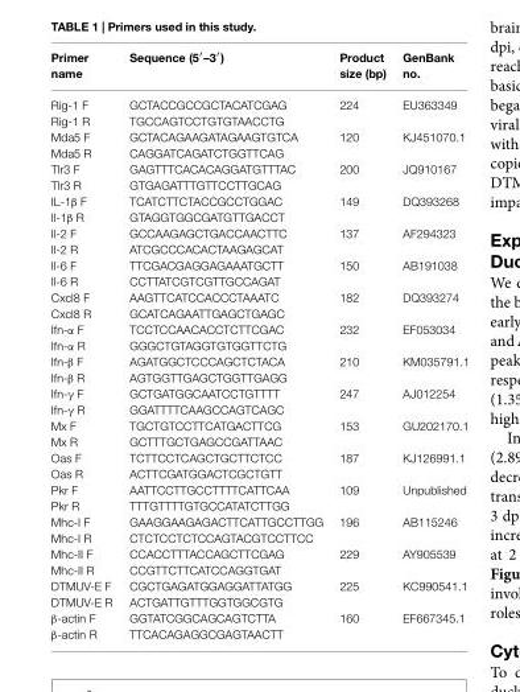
<table><thead><tr><td>Primer name</td><td>Sequence (5′–3′)</td><td>Product size (bp)</td><td>GenBank no.</td></tr></thead><tbody><tr><td>Rig-1 F</td><td>GCTACCGCCGCTACATCGAG</td><td>224</td><td>EU363349</td></tr><tr><td>Rig-1 R</td><td>TGCCAGTCCTGTGTAACCTG</td><td></td><td></td></tr><tr><td>Mda5 F</td><td>GCTACAGAAGATAGAAGTGTCA</td><td>120</td><td>KJ451070.1</td></tr><tr><td>Mda5 R</td><td>CAGGATCAGATCTGGTTCAG</td><td></td><td></td></tr><tr><td>Tlr3 F</td><td>GAGTTTCACACAGGATGTTTAC</td><td>200</td><td>JQ910167</td></tr><tr><td>Tlr3 R</td><td>GTGAGATTTGTTCCTTGCAG</td><td></td><td></td></tr><tr><td>IL-1β F</td><td>TCATCTTCTACCGCCTGGAC</td><td>149</td><td>DQ393268</td></tr><tr><td>Il-1β R</td><td>GTAGGTGGCGATGTTGACCT</td><td></td><td></td></tr><tr><td>Il-2 F</td><td>GCCAAGAGCTGACCAACTTC</td><td>137</td><td>AF294323</td></tr><tr><td>Il-2 R</td><td>ATCGCCCACACTAAGAGCAT</td><td></td><td></td></tr><tr><td>Il-6 F</td><td>TTCGACGAGGAGAAATGCTT</td><td>150</td><td>AB191038</td></tr><tr><td>Il-6 R</td><td>CCTTATCGTCGTTGCCAGAT</td><td></td><td></td></tr><tr><td>Cxcl8 F</td><td>AAGTTCATCCACCCTAAATC</td><td>182</td><td>DQ393274</td></tr><tr><td>Cxcl8 R</td><td>GCATCAGAATTGAGCTGAGC</td><td></td><td></td></tr><tr><td>Ifn-α F</td><td>TCCTCCAACACCTCTTCGAC</td><td>232</td><td>EF053034</td></tr><tr><td>Ifn-α R</td><td>GGGCTGTAGGTGTGGTTCTG</td><td></td><td></td></tr><tr><td>Ifn-β F</td><td>AGATGGCTCCCAGCTCTACA</td><td>210</td><td>KM035791.1</td></tr><tr><td>Ifn-β R</td><td>AGTGGTTGAGCTGGTTGAGG</td><td></td><td></td></tr><tr><td>Ifn-γ F</td><td>GCTGATGGCAATCCTGTTTT</td><td>247</td><td>AJ012254</td></tr><tr><td>Ifn-γ R</td><td>GGATTTTCAAGCCAGTCAGC</td><td></td><td></td></tr><tr><td>Mx F</td><td>TGCTGTCCTTCATGACTTCG</td><td>153</td><td>GU202170.1</td></tr><tr><td>Mx R</td><td>GCTTTGCTGAGCCGATTAAC</td><td></td><td></td></tr><tr><td>Oas F</td><td>TCTTCCTCAGCTGCTTCTCC</td><td>187</td><td>KJ126991.1</td></tr><tr><td>Oas R</td><td>ACTTCGATGGACTCGCTGTT</td><td></td><td></td></tr><tr><td>Pkr F</td><td>AATTCCTTGCCTTTTCATTCAA</td><td>109</td><td>Unpublished</td></tr><tr><td>Pkr R</td><td>TTTGTTTTGTGCCATATCTTGG</td><td></td><td></td></tr><tr><td>Mhc-I F</td><td>GAAGGAAGAGACTTCATTGCCTTGG</td><td>196</td><td>AB115246</td></tr><tr><td>Mhc-I R</td><td>CTCTCCTCTCCAGTACGTCCTTCC</td><td></td><td></td></tr><tr><td>Mhc-II F</td><td>CCACCTTTACCAGCTTCGAG</td><td>229</td><td>AY905539</td></tr><tr><td>Mhc-II R</td><td>CCGTTCTTCATCCAGGTGAT</td><td></td><td></td></tr><tr><td>DTMUV-E F</td><td>CGCTGAGATGGAGGATTATGG</td><td>225</td><td>KC990541.1</td></tr><tr><td>DTMUV-E R</td><td>ACTGATTGTTTGGTGGCGTG</td><td></td><td></td></tr><tr><td>β-actin F</td><td>GGTATCGGCAGCAGTCTTA</td><td>160</td><td>EF667345.1</td></tr><tr><td>β-actin R</td><td>TTCACAGAGGCGAGTAACTT</td><td></td><td></td></tr></tbody></table>